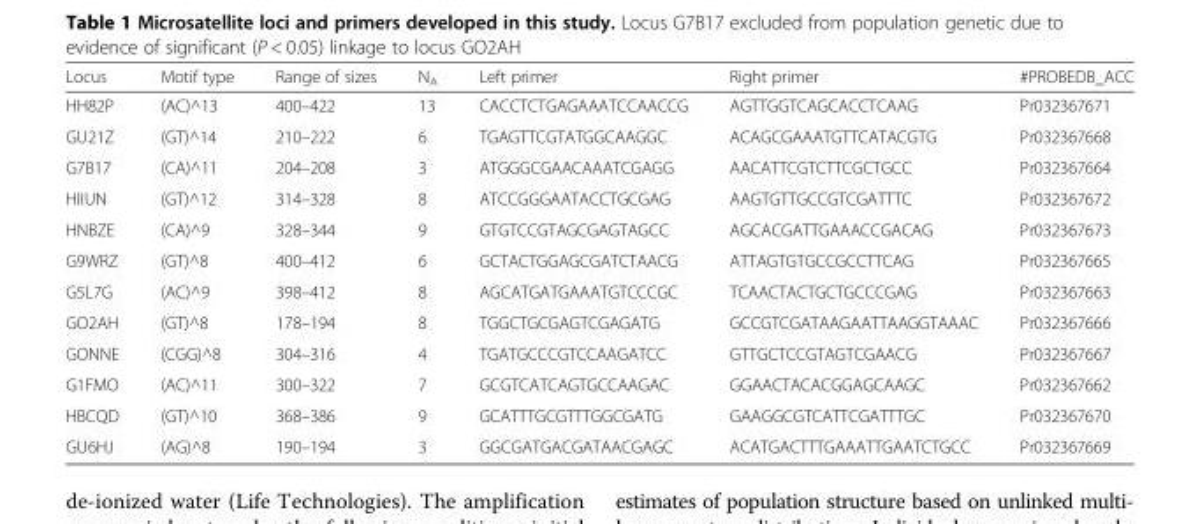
<table><thead><tr><td>Locus</td><td>Motif type</td><td>Range of sizes</td><td>N<sub>A</sub></td><td>Left primer</td><td>Right primer</td><td>#PROBEDB_ACC</td></tr></thead><tbody><tr><td>HH82P</td><td>(AC)^13</td><td>400–422</td><td>13</td><td>CACCTCTGAGAAATCCAACCG</td><td>AGTTGGTCAGCACCTCAAG</td><td>Pr032367671</td></tr><tr><td>GU21Z</td><td>(GT)^14</td><td>210–222</td><td>6</td><td>TGAGTTCGTATGGCAAGGC</td><td>ACAGCGAAATGTTCATACGTG</td><td>Pr032367668</td></tr><tr><td>G7B17</td><td>(CA)^11</td><td>204–208</td><td>3</td><td>ATGGGCGAACAAATCGAGG</td><td>AACATTCGTCTTCGCTGCC</td><td>Pr032367664</td></tr><tr><td>HIIUN</td><td>(GT)^12</td><td>314–328</td><td>8</td><td>ATCCGGGAATACCTGCGAG</td><td>AAGTGTTGCCGTCGATTTC</td><td>Pr032367672</td></tr><tr><td>HNBZE</td><td>(CA)^9</td><td>328–344</td><td>9</td><td>GTGTCCGTAGCGAGTAGCC</td><td>AGCACGATTGAAACCGACAG</td><td>Pr032367673</td></tr><tr><td>G9WRZ</td><td>(GT)^8</td><td>400–412</td><td>6</td><td>GCTACTGGAGCGATCTAACG</td><td>ATTAGTGTGCCGCCTTCAG</td><td>Pr032367665</td></tr><tr><td>G5L7G</td><td>(AC)^9</td><td>398–412</td><td>8</td><td>AGCATGATGAAATGTCCCGC</td><td>TCAACTACTGCTGCCCGAG</td><td>Pr032367663</td></tr><tr><td>GO2AH</td><td>(GT)^8</td><td>178–194</td><td>8</td><td>TGGCTGCGAGTCGAGATG</td><td>GCCGTCGATAAGAATTAAGGTAAAC</td><td>Pr032367666</td></tr><tr><td>GONNE</td><td>(CGG)^8</td><td>304–316</td><td>4</td><td>TGATGCCCGTCCAAGATCC</td><td>GTTGCTCCGTAGTCGAACG</td><td>Pr032367667</td></tr><tr><td>G1FMO</td><td>(AC)^11</td><td>300–322</td><td>7</td><td>GCGTCATCAGTGCCAAGAC</td><td>GGAACTACACGGAGCAAGC</td><td>Pr032367662</td></tr><tr><td>HBCQD</td><td>(GT)^10</td><td>368–386</td><td>9</td><td>GCATTTGCGTTTGGCGATG</td><td>GAAGGCGTCATTCGATTTGC</td><td>Pr032367670</td></tr><tr><td>GU6HJ</td><td>(AG)^8</td><td>190–194</td><td>3</td><td>GGCGATGACGATAACGAGC</td><td>ACATGACTTTGAAATTGAATCTGCC</td><td>Pr032367669</td></tr></tbody></table>